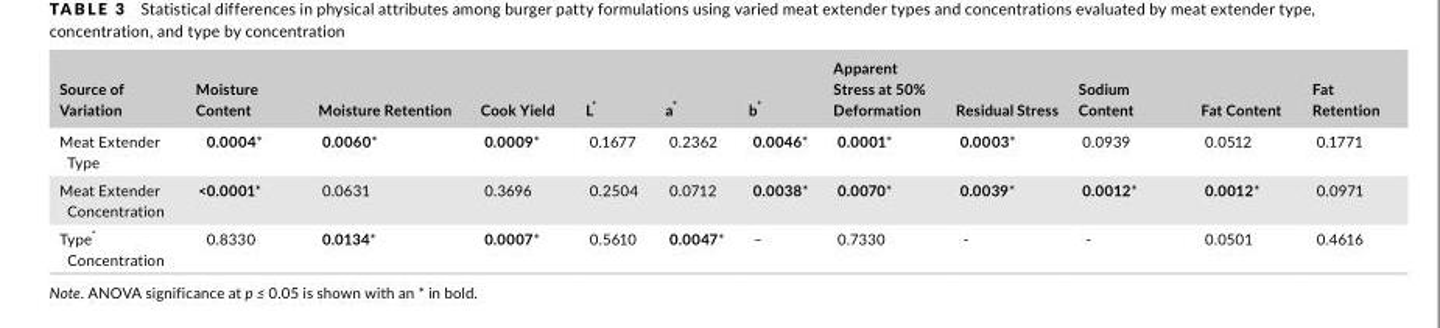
<table><thead><tr><td>Source of Variation</td><td>Moisture Content</td><td>Moisture Retention</td><td>Cook Yield</td><td>L*</td><td>a*</td><td>b*</td><td>Apparent Stress at 50% Deformation</td><td>Residual Stress</td><td>Sodium Content</td><td>Fat Content</td><td>Fat Retention</td></tr></thead><tbody><tr><td>Meat Extender Type</td><td>0.0004*</td><td>0.0060*</td><td>0.0009*</td><td>0.1677</td><td>0.2362</td><td>0.0046*</td><td>0.0001*</td><td>0.0003*</td><td>0.0939</td><td>0.0512</td><td>0.1771</td></tr><tr><td>Meat Extender Concentration</td><td>&lt;0.0001*</td><td>0.0631</td><td>0.3696</td><td>0.2504</td><td>0.0712</td><td>0.0038*</td><td>0.0070*</td><td>0.0039*</td><td>0.0012*</td><td>0.0012*</td><td>0.0971</td></tr><tr><td>Type* Concentration</td><td>0.8330</td><td>0.0134*</td><td>0.0007*</td><td>0.5610</td><td>0.0047*</td><td>–</td><td>0.7330</td><td>-</td><td>-</td><td>0.0501</td><td>0.4616</td></tr></tbody></table>